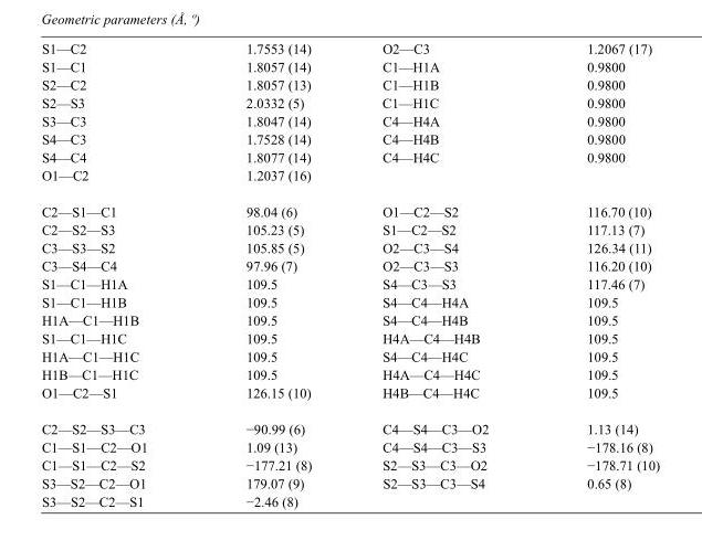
<table><tbody><tr><td>S1—C2</td><td>1.7553 (14)</td><td>O2—C3</td><td>1.2067 (17)</td></tr><tr><td>S1—C1</td><td>1.8057 (14)</td><td>C1—H1A</td><td>0.9800</td></tr><tr><td>S2—C2</td><td>1.8057 (13)</td><td>C1—H1B</td><td>0.9800</td></tr><tr><td>S2—S3</td><td>2.0332 (5)</td><td>C1—H1C</td><td>0.9800</td></tr><tr><td>S3—C3</td><td>1.8047 (14)</td><td>C4—H4A</td><td>0.9800</td></tr><tr><td>S4—C3</td><td>1.7528 (14)</td><td>C4—H4B</td><td>0.9800</td></tr><tr><td>S4—C4</td><td>1.8077 (14)</td><td>C4—H4C</td><td>0.9800</td></tr><tr><td>O1—C2</td><td>1.2037 (16)</td><td></td><td></td></tr><tr><td>C2—S1—C1</td><td>98.04 (6)</td><td>O1—C2—S2</td><td>116.70 (10)</td></tr><tr><td>C2—S2—S3</td><td>105.23 (5)</td><td>S1—C2—S2</td><td>117.13 (7)</td></tr><tr><td>C3—S3—S2</td><td>105.85 (5)</td><td>O2—C3—S4</td><td>126.34 (11)</td></tr><tr><td>C3—S4—C4</td><td>97.96 (7)</td><td>O2—C3—S3</td><td>116.20 (10)</td></tr><tr><td>S1—C1—H1A</td><td>109.5</td><td>S4—C3—S3</td><td>117.46 (7)</td></tr><tr><td>S1—C1—H1B</td><td>109.5</td><td>S4—C4—H4A</td><td>109.5</td></tr><tr><td>H1A—C1—H1B</td><td>109.5</td><td>S4—C4—H4B</td><td>109.5</td></tr><tr><td>S1—C1—H1C</td><td>109.5</td><td>H4A—C4—H4B</td><td>109.5</td></tr><tr><td>H1A—C1—H1C</td><td>109.5</td><td>S4—C4—H4C</td><td>109.5</td></tr><tr><td>H1B—C1—H1C</td><td>109.5</td><td>H4A—C4—H4C</td><td>109.5</td></tr><tr><td>O1—C2—S1</td><td>126.15 (10)</td><td>H4B—C4—H4C</td><td>109.5</td></tr><tr><td>C2—S2—S3—C3</td><td>−90.99 (6)</td><td>C4—S4—C3—O2</td><td>1.13 (14)</td></tr><tr><td>C1—S1—C2—O1</td><td>1.09 (13)</td><td>C4—S4—C3—S3</td><td>−178.16 (8)</td></tr><tr><td>C1—S1—C2—S2</td><td>−177.21 (8)</td><td>S2—S3—C3—O2</td><td>−178.71 (10)</td></tr><tr><td>S3—S2—C2—O1</td><td>179.07 (9)</td><td>S2—S3—C3—S4</td><td>0.65 (8)</td></tr><tr><td>S3—S2—C2—S1</td><td>−2.46 (8)</td><td></td><td></td></tr></tbody></table>